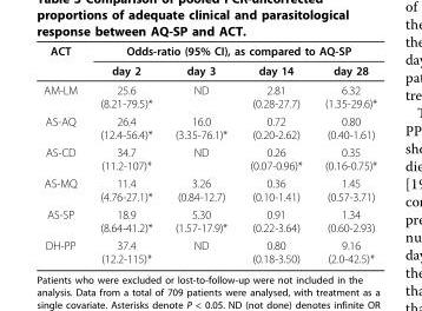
<table><thead><tr><td rowspan="2">ACT</td><td colspan="4">Odds-ratio (95% CI), as compared to AQ-SP</td></tr><tr><td>day 2</td><td>day 3</td><td>day 14</td><td>day 28</td></tr></thead><tbody><tr><td>AM-LM</td><td>25.6 (8.21-79.5)*</td><td>ND</td><td>2.81 (0.28-27.7)</td><td>6.32 (1.35-29.6)*</td></tr><tr><td>AS-AQ</td><td>26.4 (12.4-56.4)*</td><td>16.0 (3.35-76.1)*</td><td>0.72 (0.20-2.62)</td><td>0.80 (0.40-1.61)</td></tr><tr><td>AS-CD</td><td>34.7 (11.2-107)*</td><td>ND</td><td>0.26 (0.07-0.96)*</td><td>0.35 (0.16-0.75)*</td></tr><tr><td>AS-MQ</td><td>11.4 (4.76-27.1)*</td><td>3.26 (0.84-12.7)</td><td>0.36 (0.10-1.41)</td><td>1.45 (0.57-3.71)</td></tr><tr><td>AS-SP</td><td>18.9 (8.64-41.2)*</td><td>5.30 (1.57-17.9)*</td><td>0.91 (0.22-3.64)</td><td>1.34 (0.60-2.93)</td></tr><tr><td>DH-PP</td><td>37.4 (12.2-115)*</td><td>ND</td><td>0.80 (0.18-3.50)</td><td>9.16 (2.0-42.5)*</td></tr></tbody></table>